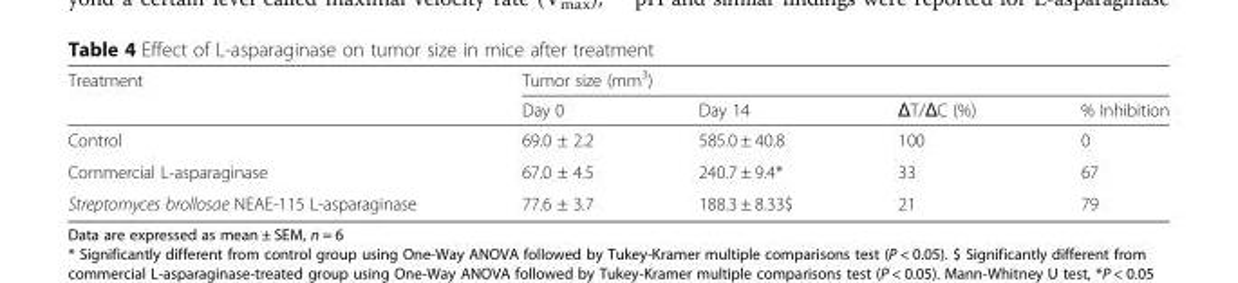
<table><thead><tr><td rowspan="2">Treatment</td><td colspan="4">Tumor size (mm<sup>3</sup>)</td></tr><tr><td>Day 0</td><td>Day 14</td><td>ΔT/ΔC (%)</td><td>% Inhibition</td></tr></thead><tbody><tr><td>Control</td><td>69.0 ± 2.2</td><td>585.0 ± 40.8</td><td>100</td><td>0</td></tr><tr><td>Commercial L-asparaginase</td><td>67.0 ± 4.5</td><td>240.7 ± 9.4*</td><td>33</td><td>67</td></tr><tr><td>Streptomyces brollosae NEAE-115 L-asparaginase</td><td>77.6 ± 3.7</td><td>188.3 ± 8.33$</td><td>21</td><td>79</td></tr></tbody></table>